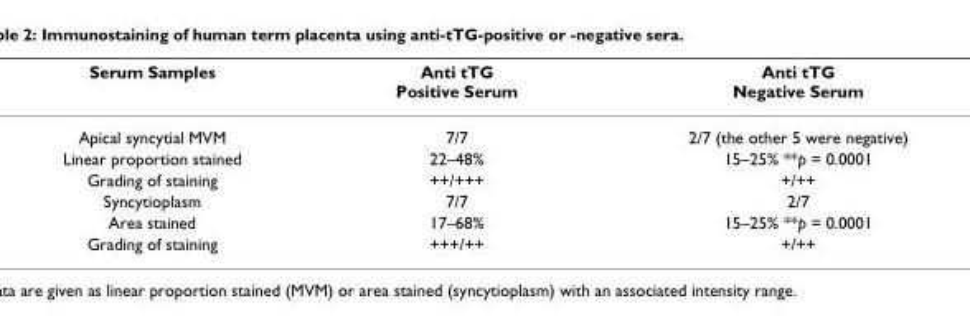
<table><thead><tr><td>Serum Samples</td><td>Anti tTG Positive Serum</td><td>Anti tTG Negative Serum</td></tr></thead><tbody><tr><td>Apical syncytial MVM</td><td>7/7</td><td>2/7 (the other 5 were negative)</td></tr><tr><td>Linear proportion stained</td><td>22–48%</td><td>15–25% **p = 0.0001</td></tr><tr><td>Grading of staining</td><td>++/+++</td><td>+/++</td></tr><tr><td>Syncytioplasm</td><td>7/7</td><td>2/7</td></tr><tr><td>Area stained</td><td>17–68%</td><td>15–25% **p = 0.0001</td></tr><tr><td>Grading of staining</td><td>+++/++</td><td>+/++</td></tr></tbody></table>